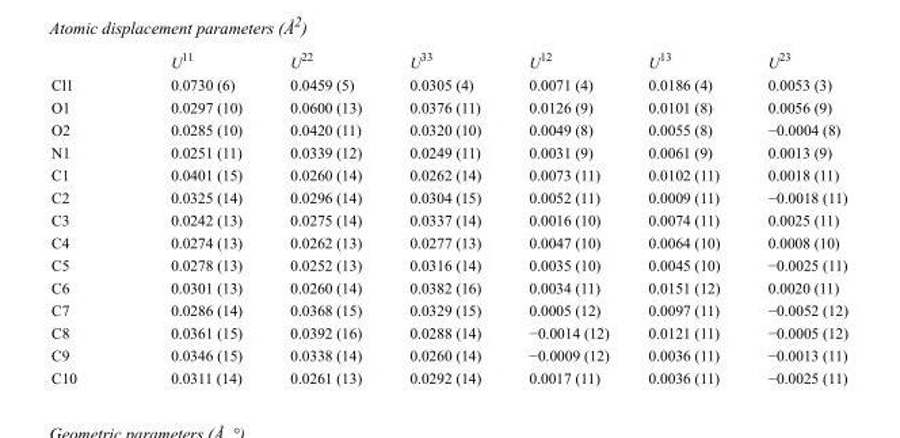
<table><thead><tr><td></td><td>U<sup>11</sup></td><td>U<sup>22</sup></td><td>U<sup>33</sup></td><td>U<sup>12</sup></td><td>U<sup>13</sup></td><td>U<sup>23</sup></td></tr></thead><tbody><tr><td>Cl1</td><td>0.0730 (6)</td><td>0.0459 (5)</td><td>0.0305 (4)</td><td>0.0071 (4)</td><td>0.0186 (4)</td><td>0.0053 (3)</td></tr><tr><td>O1</td><td>0.0297 (10)</td><td>0.0600 (13)</td><td>0.0376 (11)</td><td>0.0126 (9)</td><td>0.0101 (8)</td><td>0.0056 (9)</td></tr><tr><td>O2</td><td>0.0285 (10)</td><td>0.0420 (11)</td><td>0.0320 (10)</td><td>0.0049 (8)</td><td>0.0055 (8)</td><td>−0.0004 (8)</td></tr><tr><td>N1</td><td>0.0251 (11)</td><td>0.0339 (12)</td><td>0.0249 (11)</td><td>0.0031 (9)</td><td>0.0061 (9)</td><td>0.0013 (9)</td></tr><tr><td>C1</td><td>0.0401 (15)</td><td>0.0260 (14)</td><td>0.0262 (14)</td><td>0.0073 (11)</td><td>0.0102 (11)</td><td>0.0018 (11)</td></tr><tr><td>C2</td><td>0.0325 (14)</td><td>0.0296 (14)</td><td>0.0304 (15)</td><td>0.0052 (11)</td><td>0.0009 (11)</td><td>−0.0018 (11)</td></tr><tr><td>C3</td><td>0.0242 (13)</td><td>0.0275 (14)</td><td>0.0337 (14)</td><td>0.0016 (10)</td><td>0.0074 (11)</td><td>0.0025 (11)</td></tr><tr><td>C4</td><td>0.0274 (13)</td><td>0.0262 (13)</td><td>0.0277 (13)</td><td>0.0047 (10)</td><td>0.0064 (10)</td><td>0.0008 (10)</td></tr><tr><td>C5</td><td>0.0278 (13)</td><td>0.0252 (13)</td><td>0.0316 (14)</td><td>0.0035 (10)</td><td>0.0045 (10)</td><td>−0.0025 (11)</td></tr><tr><td>C6</td><td>0.0301 (13)</td><td>0.0260 (14)</td><td>0.0382 (16)</td><td>0.0034 (11)</td><td>0.0151 (12)</td><td>0.0020 (11)</td></tr><tr><td>C7</td><td>0.0286 (14)</td><td>0.0368 (15)</td><td>0.0329 (15)</td><td>0.0005 (12)</td><td>0.0097 (11)</td><td>−0.0052 (12)</td></tr><tr><td>C8</td><td>0.0361 (15)</td><td>0.0392 (16)</td><td>0.0288 (14)</td><td>−0.0014 (12)</td><td>0.0121 (11)</td><td>−0.0005 (12)</td></tr><tr><td>C9</td><td>0.0346 (15)</td><td>0.0338 (14)</td><td>0.0260 (14)</td><td>−0.0009 (12)</td><td>0.0036 (11)</td><td>−0.0013 (11)</td></tr><tr><td>C10</td><td>0.0311 (14)</td><td>0.0261 (13)</td><td>0.0292 (14)</td><td>0.0017 (11)</td><td>0.0036 (11)</td><td>−0.0025 (11)</td></tr></tbody></table>